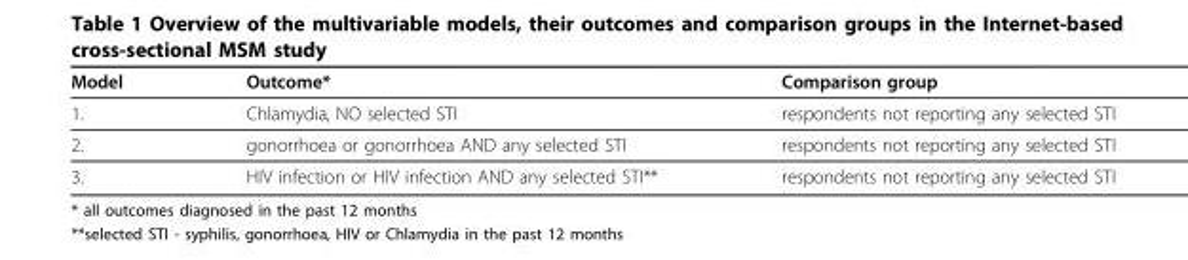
<table><thead><tr><td>Model</td><td>Outcome*</td><td>Comparison group</td></tr></thead><tbody><tr><td>1.</td><td>Chlamydia, NO selected STI</td><td>respondents not reporting any selected STI</td></tr><tr><td>2.</td><td>gonorrhoea or gonorrhoea AND any selected STI</td><td>respondents not reporting any selected STI</td></tr><tr><td>3.</td><td>HIV infection or HIV infection AND any selected STI**</td><td>respondents not reporting any selected STI</td></tr></tbody></table>